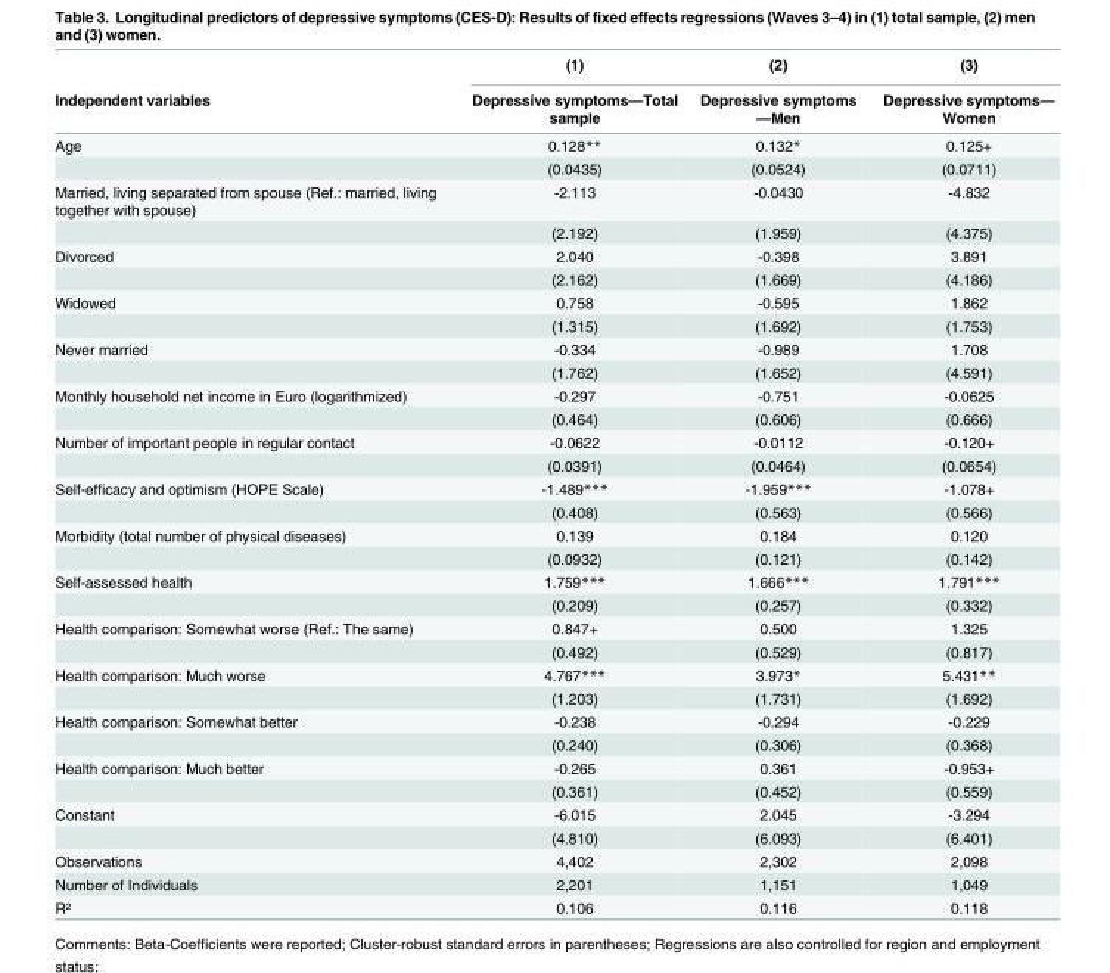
<table><thead><tr><td rowspan="2">Independent variables</td><td rowspan="2">(1) Depressive symptoms—Total sample</td><td rowspan="2">(2) Depressive symptoms —Men</td><td rowspan="2">(3) Depressive symptoms— Women</td></tr><tr></tr></thead><tbody><tr><td rowspan="2">Age</td><td>0.128**</td><td>0.132*</td><td>0.125+</td></tr><tr><td>(0.0435)</td><td>(0.0524)</td><td>(0.0711)</td></tr><tr><td rowspan="2">Married, living separated from spouse (Ref.: married, living together with spouse)</td><td>-2.113</td><td>-0.0430</td><td>-4.832</td></tr><tr><td>(2.192)</td><td>(1.959)</td><td>(4.375)</td></tr><tr><td rowspan="2">Divorced</td><td>2.040</td><td>-0.398</td><td>3.891</td></tr><tr><td>(2.162)</td><td>(1.669)</td><td>(4.186)</td></tr><tr><td rowspan="2">Widowed</td><td>0.758</td><td>-0.595</td><td>1.862</td></tr><tr><td>(1.315)</td><td>(1.692)</td><td>(1.753)</td></tr><tr><td rowspan="2">Never married</td><td>-0.334</td><td>-0.989</td><td>1.708</td></tr><tr><td>(1.762)</td><td>(1.652)</td><td>(4.591)</td></tr><tr><td rowspan="2">Monthly household net income in Euro (logarithmized)</td><td>-0.297</td><td>-0.751</td><td>-0.0625</td></tr><tr><td>(0.464)</td><td>(0.606)</td><td>(0.666)</td></tr><tr><td rowspan="2">Number of important people in regular contact</td><td>-0.0622</td><td>-0.0112</td><td>-0.120+</td></tr><tr><td>(0.0391)</td><td>(0.0464)</td><td>(0.0654)</td></tr><tr><td rowspan="2">Self-efficacy and optimism (HOPE Scale)</td><td>-1.489***</td><td>-1.959***</td><td>-1.078+</td></tr><tr><td>(0.408)</td><td>(0.563)</td><td>(0.566)</td></tr><tr><td rowspan="2">Morbidity (total number of physical diseases)</td><td>0.139</td><td>0.184</td><td>0.120</td></tr><tr><td>(0.0932)</td><td>(0.121)</td><td>(0.142)</td></tr><tr><td rowspan="2">Self-assessed health</td><td>1.759***</td><td>1.666***</td><td>1.791***</td></tr><tr><td>(0.209)</td><td>(0.257)</td><td>(0.332)</td></tr><tr><td rowspan="2">Health comparison: Somewhat worse (Ref.: The same)</td><td>0.847+</td><td>0.500</td><td>1.325</td></tr><tr><td>(0.492)</td><td>(0.529)</td><td>(0.817)</td></tr><tr><td rowspan="2">Health comparison: Much worse</td><td>4.767***</td><td>3.973*</td><td>5.431**</td></tr><tr><td>(1.203)</td><td>(1.731)</td><td>(1.692)</td></tr><tr><td rowspan="2">Health comparison: Somewhat better</td><td>-0.238</td><td>-0.294</td><td>-0.229</td></tr><tr><td>(0.240)</td><td>(0.306)</td><td>(0.368)</td></tr><tr><td rowspan="2">Health comparison: Much better</td><td>-0.265</td><td>0.361</td><td>-0.953+</td></tr><tr><td>(0.361)</td><td>(0.452)</td><td>(0.559)</td></tr><tr><td rowspan="2">Constant</td><td>-6.015</td><td>2.045</td><td>-3.294</td></tr><tr><td>(4.810)</td><td>(6.093)</td><td>(6.401)</td></tr><tr><td>Observations</td><td>4,402</td><td>2,302</td><td>2,098</td></tr><tr><td>Number of Individuals</td><td>2,201</td><td>1,151</td><td>1,049</td></tr><tr><td>R²</td><td>0.106</td><td>0.116</td><td>0.118</td></tr></tbody></table>